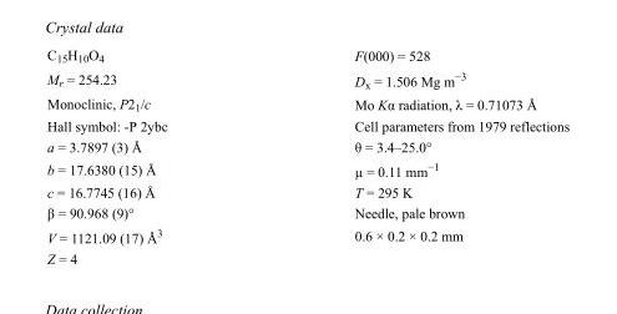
<table><tbody><tr><td>C<sub>15</sub>H<sub>10</sub>O<sub>4</sub></td><td>F(000) = 528</td></tr><tr><td>M<sub>r</sub> = 254.23</td><td>D<sub>x</sub> = 1.506 Mg m<sup>−3</sup></td></tr><tr><td>Monoclinic, P2<sub>1</sub>/c</td><td>Mo Kα radiation, λ = 0.71073 Å</td></tr><tr><td>Hall symbol: -P 2ybc</td><td>Cell parameters from 1979 reflections</td></tr><tr><td>a = 3.7897 (3) Å</td><td>θ = 3.4–25.0°</td></tr><tr><td>b = 17.6380 (15) Å</td><td>µ = 0.11 mm<sup>−1</sup></td></tr><tr><td>c = 16.7745 (16) Å</td><td>T = 295 K</td></tr><tr><td>β = 90.968 (9)°</td><td>Needle, pale brown</td></tr><tr><td>V = 1121.09 (17) Å<sup>3</sup></td><td>0.6 × 0.2 × 0.2 mm</td></tr><tr><td>Z = 4</td><td></td></tr></tbody></table>